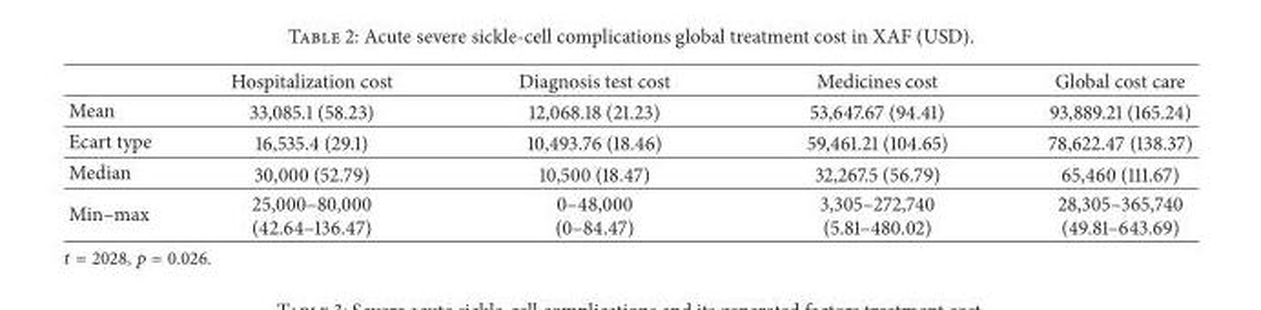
<table><thead><tr><td></td><td>Hospitalization cost</td><td>Diagnosis test cost</td><td>Medicines cost</td><td>Global cost care</td></tr></thead><tbody><tr><td>Mean</td><td>33,085.1 (58.23)</td><td>12,068.18 (21.23)</td><td>53,647.67 (94.41)</td><td>93,889.21 (165.24)</td></tr><tr><td>Ecart type</td><td>16,535.4 (29.1)</td><td>10,493.76 (18.46)</td><td>59,461.21 (104.65)</td><td>78,622.47 (138.37)</td></tr><tr><td>Median</td><td>30,000 (52.79)</td><td>10,500 (18.47)</td><td>32,267.5 (56.79)</td><td>65,460 (111.67)</td></tr><tr><td>Min–max</td><td>25,000–80,000 (42.64–136.47)</td><td>0–48,000 (0–84.47)</td><td>3,305–272,740 (5.81–480.02)</td><td>28,305–365,740 (49.81–643.69)</td></tr></tbody></table>